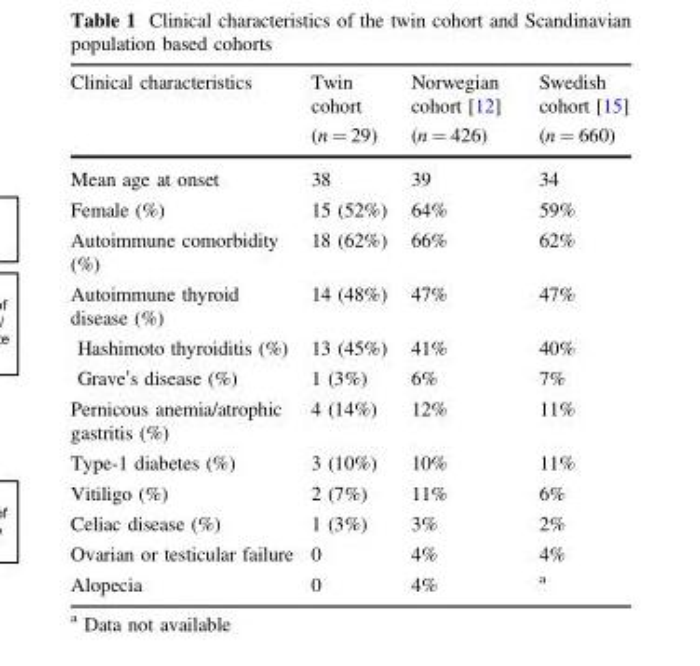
<table><thead><tr><td rowspan="2">Clinical characteristics</td><td rowspan="2">Twin cohort (n = 29)</td><td rowspan="2">Norwegian cohort [12] (n = 426)</td><td rowspan="2">Swedish cohort [15] (n = 660)</td></tr><tr></tr></thead><tbody><tr><td>Mean age at onset</td><td>38</td><td>39</td><td>34</td></tr><tr><td>Female (%)</td><td>15 (52%)</td><td>64%</td><td>59%</td></tr><tr><td>Autoimmune comorbidity (%)</td><td>18 (62%)</td><td>66%</td><td>62%</td></tr><tr><td>Autoimmune thyroid disease (%)</td><td>14 (48%)</td><td>47%</td><td>47%</td></tr><tr><td>Hashimoto thyroiditis (%)</td><td>13 (45%)</td><td>41%</td><td>40%</td></tr><tr><td>Grave’s disease (%)</td><td>1 (3%)</td><td>6%</td><td>7%</td></tr><tr><td>Pernicous anemia/atrophic gastritis (%)</td><td>4 (14%)</td><td>12%</td><td>11%</td></tr><tr><td>Type-1 diabetes (%)</td><td>3 (10%)</td><td>10%</td><td>11%</td></tr><tr><td>Vitiligo (%)</td><td>2 (7%)</td><td>11%</td><td>6%</td></tr><tr><td>Celiac disease (%)</td><td>1 (3%)</td><td>3%</td><td>2%</td></tr><tr><td>Ovarian or testicular failure</td><td>0</td><td>4%</td><td>4%</td></tr><tr><td>Alopecia</td><td>0</td><td>4%</td><td><sup>a</sup></td></tr></tbody></table>